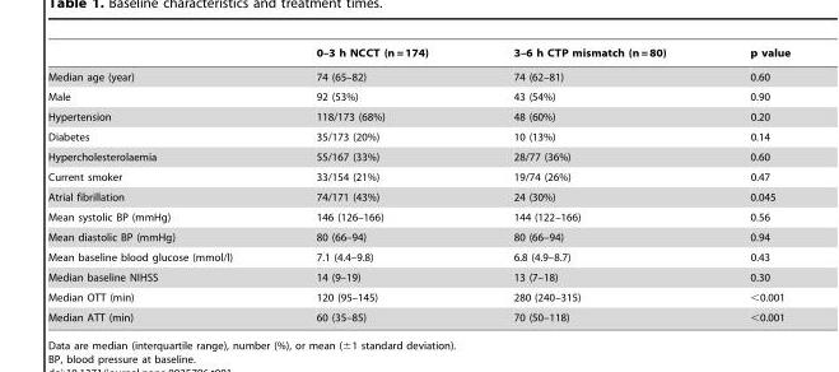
<table><thead><tr><td></td><td>0–3 h NCCT (n = 174)</td><td>3–6 h CTP mismatch (n = 80)</td><td>p value</td></tr></thead><tbody><tr><td>Median age (year)</td><td>74 (65–82)</td><td>74 (62–81)</td><td>0.60</td></tr><tr><td>Male</td><td>92 (53%)</td><td>43 (54%)</td><td>0.90</td></tr><tr><td>Hypertension</td><td>118/173 (68%)</td><td>48 (60%)</td><td>0.20</td></tr><tr><td>Diabetes</td><td>35/173 (20%)</td><td>10 (13%)</td><td>0.14</td></tr><tr><td>Hypercholesterolaemia</td><td>55/167 (33%)</td><td>28/77 (36%)</td><td>0.60</td></tr><tr><td>Current smoker</td><td>33/154 (21%)</td><td>19/74 (26%)</td><td>0.47</td></tr><tr><td>Atrial fibrillation</td><td>74/171 (43%)</td><td>24 (30%)</td><td>0.045</td></tr><tr><td>Mean systolic BP (mmHg)</td><td>146 (126–166)</td><td>144 (122–166)</td><td>0.56</td></tr><tr><td>Mean diastolic BP (mmHg)</td><td>80 (66–94)</td><td>80 (66–94)</td><td>0.94</td></tr><tr><td>Mean baseline blood glucose (mmol/l)</td><td>7.1 (4.4–9.8)</td><td>6.8 (4.9–8.7)</td><td>0.43</td></tr><tr><td>Median baseline NIHSS</td><td>14 (9–19)</td><td>13 (7–18)</td><td>0.30</td></tr><tr><td>Median OTT (min)</td><td>120 (95–145)</td><td>280 (240–315)</td><td>&lt;0.001</td></tr><tr><td>Median ATT (min)</td><td>60 (35–85)</td><td>70 (50–118)</td><td>&lt;0.001</td></tr></tbody></table>